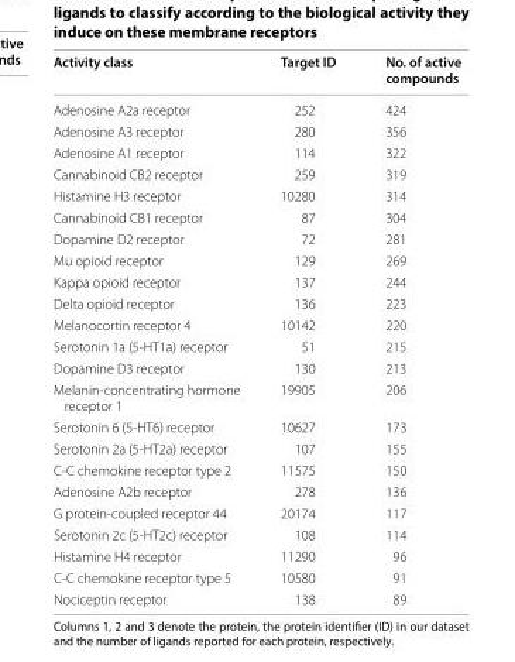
<table><thead><tr><td>Activity class</td><td>Target ID</td><td>No. of active compounds</td></tr></thead><tbody><tr><td>Adenosine A2a receptor</td><td>252</td><td>424</td></tr><tr><td>Adenosine A3 receptor</td><td>280</td><td>356</td></tr><tr><td>Adenosine A1 receptor</td><td>114</td><td>322</td></tr><tr><td>Cannabinoid CB2 receptor</td><td>259</td><td>319</td></tr><tr><td>Histamine H3 receptor</td><td>10280</td><td>314</td></tr><tr><td>Cannabinoid CB1 receptor</td><td>87</td><td>304</td></tr><tr><td>Dopamine D2 receptor</td><td>72</td><td>281</td></tr><tr><td>Mu opioid receptor</td><td>129</td><td>269</td></tr><tr><td>Kappa opioid receptor</td><td>137</td><td>244</td></tr><tr><td>Delta opioid receptor</td><td>136</td><td>223</td></tr><tr><td>Melanocortin receptor 4</td><td>10142</td><td>220</td></tr><tr><td>Serotonin 1a (5-HT1a) receptor</td><td>51</td><td>215</td></tr><tr><td>Dopamine D3 receptor</td><td>130</td><td>213</td></tr><tr><td>Melanin-concentrating hormone receptor 1</td><td>19905</td><td>206</td></tr><tr><td>Serotonin 6 (5-HT6) receptor</td><td>10627</td><td>173</td></tr><tr><td>Serotonin 2a (5-HT2a) receptor</td><td>107</td><td>155</td></tr><tr><td>C-C chemokine receptor type 2</td><td>11575</td><td>150</td></tr><tr><td>Adenosine A2b receptor</td><td>278</td><td>136</td></tr><tr><td>G protein-coupled receptor 44</td><td>20174</td><td>117</td></tr><tr><td>Serotonin 2c (5-HT2c) receptor</td><td>108</td><td>114</td></tr><tr><td>Histamine H4 receptor</td><td>11290</td><td>96</td></tr><tr><td>C-C chemokine receptor type 5</td><td>10580</td><td>91</td></tr><tr><td>Nociceptin receptor</td><td>138</td><td>89</td></tr></tbody></table>